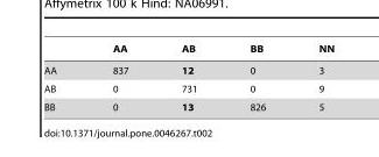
<table><thead><tr><td></td><td>AA</td><td>AB</td><td>BB</td><td>NN</td></tr></thead><tbody><tr><td>AA</td><td>837</td><td>12</td><td>0</td><td>3</td></tr><tr><td>AB</td><td>0</td><td>731</td><td>0</td><td>9</td></tr><tr><td>BB</td><td>0</td><td>13</td><td>826</td><td>5</td></tr></tbody></table>